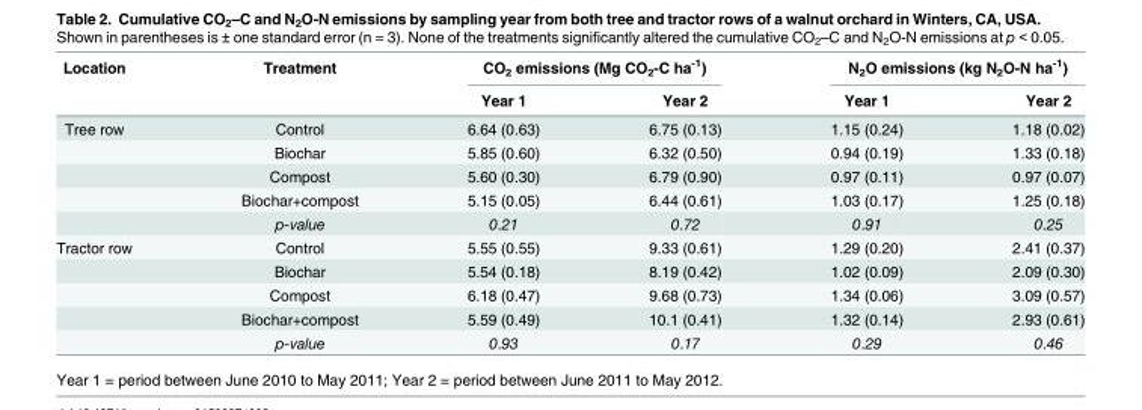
<table><thead><tr><td rowspan="2">Location</td><td rowspan="2">Treatment</td><td colspan="2">CO<sub>2</sub> emissions (Mg CO<sub>2</sub>-C ha<sup>-1</sup>)</td><td colspan="2">N<sub>2</sub>O emissions (kg N<sub>2</sub>O-N ha<sup>-1</sup>)</td></tr><tr><td>Year 1</td><td>Year 2</td><td>Year 1</td><td>Year 2</td></tr></thead><tbody><tr><td rowspan="5">Tree row</td><td>Control</td><td>6.64 (0.63)</td><td>6.75 (0.13)</td><td>1.15 (0.24)</td><td>1.18 (0.02)</td></tr><tr><td>Biochar</td><td>5.85 (0.60)</td><td>6.32 (0.50)</td><td>0.94 (0.19)</td><td>1.33 (0.18)</td></tr><tr><td>Compost</td><td>5.60 (0.30)</td><td>6.79 (0.90)</td><td>0.97 (0.11)</td><td>0.97 (0.07)</td></tr><tr><td>Biochar+compost</td><td>5.15 (0.05)</td><td>6.44 (0.61)</td><td>1.03 (0.17)</td><td>1.25 (0.18)</td></tr><tr><td>p-value</td><td>0.21</td><td>0.72</td><td>0.91</td><td>0.25</td></tr><tr><td rowspan="5">Tractor row</td><td>Control</td><td>5.55 (0.55)</td><td>9.33 (0.61)</td><td>1.29 (0.20)</td><td>2.41 (0.37)</td></tr><tr><td>Biochar</td><td>5.54 (0.18)</td><td>8.19 (0.42)</td><td>1.02 (0.09)</td><td>2.09 (0.30)</td></tr><tr><td>Compost</td><td>6.18 (0.47)</td><td>9.68 (0.73)</td><td>1.34 (0.06)</td><td>3.09 (0.57)</td></tr><tr><td>Biochar+compost</td><td>5.59 (0.49)</td><td>10.1 (0.41)</td><td>1.32 (0.14)</td><td>2.93 (0.61)</td></tr><tr><td>p-value</td><td>0.93</td><td>0.17</td><td>0.29</td><td>0.46</td></tr></tbody></table>